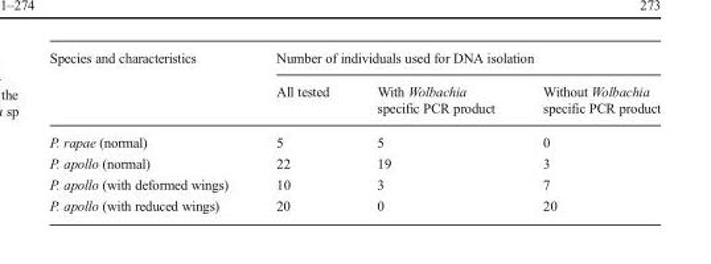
<table><thead><tr><td rowspan="2">Species and characteristics</td><td colspan="3">Number of individuals used for DNA isolation</td></tr><tr><td>All tested</td><td>With Wolbachia specific PCR product</td><td>Without Wolbachia specific PCR product</td></tr></thead><tbody><tr><td>P. rapae (normal)</td><td>5</td><td>5</td><td>0</td></tr><tr><td>P. apollo (normal)</td><td>22</td><td>19</td><td>3</td></tr><tr><td>P. apollo (with deformed wings)</td><td>10</td><td>3</td><td>7</td></tr><tr><td>P. apollo (with reduced wings)</td><td>20</td><td>0</td><td>20</td></tr></tbody></table>